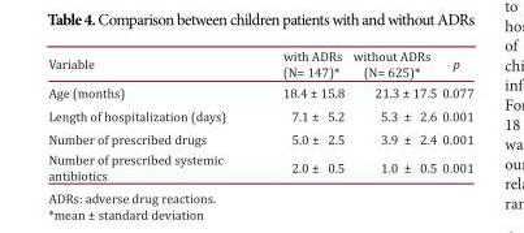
<table><thead><tr><td>Variable</td><td>with ADRs (N= 147)*</td><td>without ADRs (N= 625)*</td><td>p</td></tr></thead><tbody><tr><td>Age (months)</td><td>18.4 ± 15.8</td><td>21.3 ± 17.5</td><td>0.077</td></tr><tr><td>Length of hospitalization (days)</td><td>7.1 ± 5.2</td><td>5.3 ± 2.6</td><td>0.001</td></tr><tr><td>Number of prescribed drugs</td><td>5.0 ± 2.5</td><td>3.9 ± 2.4</td><td>0.001</td></tr><tr><td>Number of prescribed systemic antibiotics</td><td>2.0 ± 0.5</td><td>1.0 ± 0.5</td><td>0.001</td></tr></tbody></table>